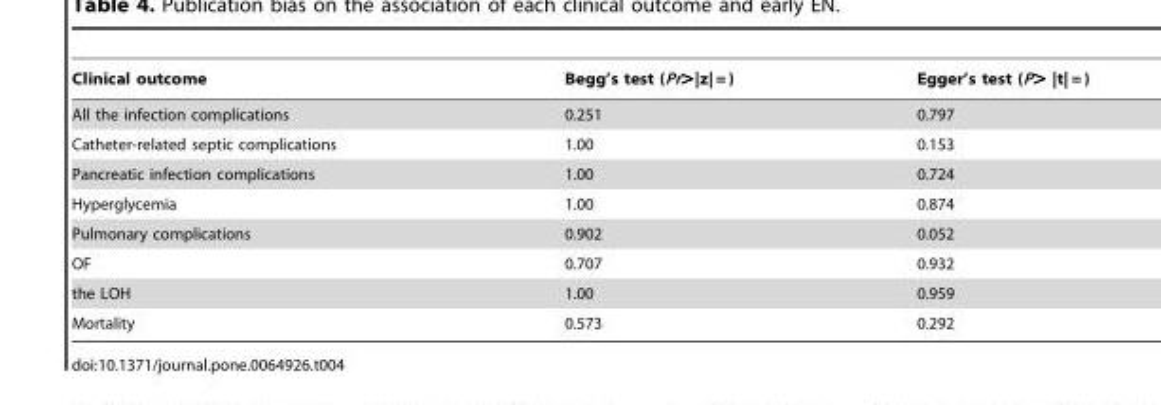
<table><thead><tr><td>Clinical outcome</td><td>Begg’s test (Pr&gt;|z| = )</td><td>Egger’s test (P&gt; |t| = )</td></tr></thead><tbody><tr><td>All the infection complications</td><td>0.251</td><td>0.797</td></tr><tr><td>Catheter-related septic complications</td><td>1.00</td><td>0.153</td></tr><tr><td>Pancreatic infection complications</td><td>1.00</td><td>0.724</td></tr><tr><td>Hyperglycemia</td><td>1.00</td><td>0.874</td></tr><tr><td>Pulmonary complications</td><td>0.902</td><td>0.052</td></tr><tr><td>OF</td><td>0.707</td><td>0.932</td></tr><tr><td>the LOH</td><td>1.00</td><td>0.959</td></tr><tr><td>Mortality</td><td>0.573</td><td>0.292</td></tr></tbody></table>